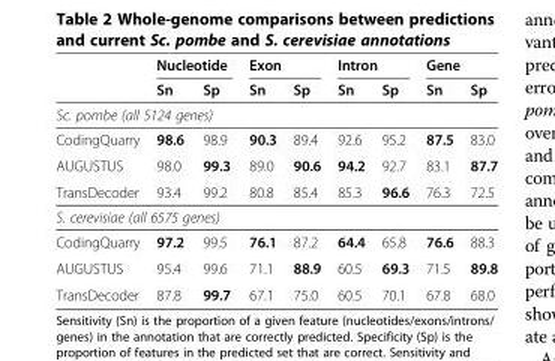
<table><thead><tr><td rowspan="2"></td><td colspan="2">Nucleotide</td><td colspan="2">Exon</td><td colspan="2">Intron</td><td colspan="2">Gene</td></tr><tr><td>Sn</td><td>Sp</td><td>Sn</td><td>Sp</td><td>Sn</td><td>Sp</td><td>Sn</td><td>Sp</td></tr></thead><tbody><tr><td colspan="9">Sc. pombe (all 5124 genes)</td></tr><tr><td>CodingQuarry</td><td>98.6</td><td>98.9</td><td>90.3</td><td>89.4</td><td>92.6</td><td>95.2</td><td>87.5</td><td>83.0</td></tr><tr><td>AUGUSTUS</td><td>98.0</td><td>99.3</td><td>89.0</td><td>90.6</td><td>94.2</td><td>92.7</td><td>83.1</td><td>87.7</td></tr><tr><td>TransDecoder</td><td>93.4</td><td>99.2</td><td>80.8</td><td>85.4</td><td>85.3</td><td>96.6</td><td>76.3</td><td>72.5</td></tr><tr><td colspan="9">S. cerevisiae (all 6575 genes)</td></tr><tr><td>CodingQuarry</td><td>97.2</td><td>99.5</td><td>76.1</td><td>87.2</td><td>64.4</td><td>65.8</td><td>76.6</td><td>88.3</td></tr><tr><td>AUGUSTUS</td><td>95.4</td><td>99.6</td><td>71.1</td><td>88.9</td><td>60.5</td><td>69.3</td><td>71.5</td><td>89.8</td></tr><tr><td>TransDecoder</td><td>87.8</td><td>99.7</td><td>67.1</td><td>75.0</td><td>60.5</td><td>70.1</td><td>67.8</td><td>68.0</td></tr></tbody></table>